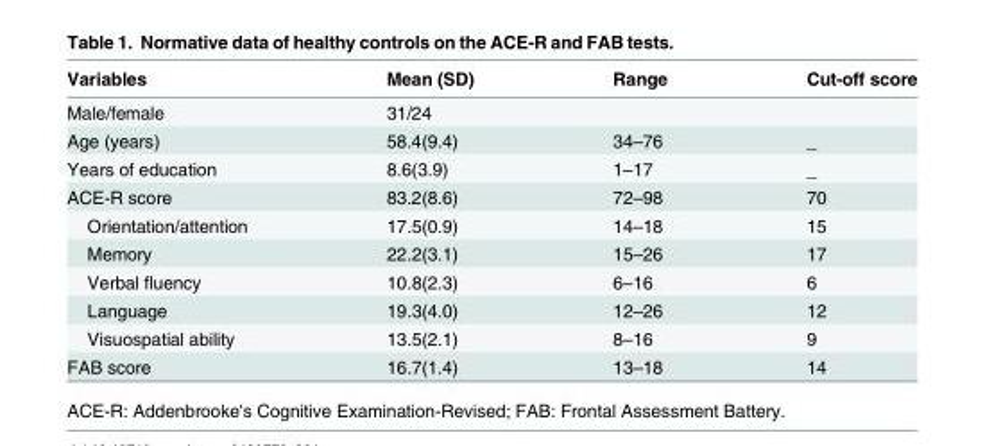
<table><thead><tr><td>Variables</td><td>Mean (SD)</td><td>Range</td><td>Cut-off score</td></tr></thead><tbody><tr><td>Male/female</td><td>31/24</td><td></td><td></td></tr><tr><td>Age (years)</td><td>58.4(9.4)</td><td>34–76</td><td>_</td></tr><tr><td>Years of education</td><td>8.6(3.9)</td><td>1–17</td><td>_</td></tr><tr><td>ACE-R score</td><td>83.2(8.6)</td><td>72–98</td><td>70</td></tr><tr><td>Orientation/attention</td><td>17.5(0.9)</td><td>14–18</td><td>15</td></tr><tr><td>Memory</td><td>22.2(3.1)</td><td>15–26</td><td>17</td></tr><tr><td>Verbal fluency</td><td>10.8(2.3)</td><td>6–16</td><td>6</td></tr><tr><td>Language</td><td>19.3(4.0)</td><td>12–26</td><td>12</td></tr><tr><td>Visuospatial ability</td><td>13.5(2.1)</td><td>8–16</td><td>9</td></tr><tr><td>FAB score</td><td>16.7(1.4)</td><td>13–18</td><td>14</td></tr></tbody></table>